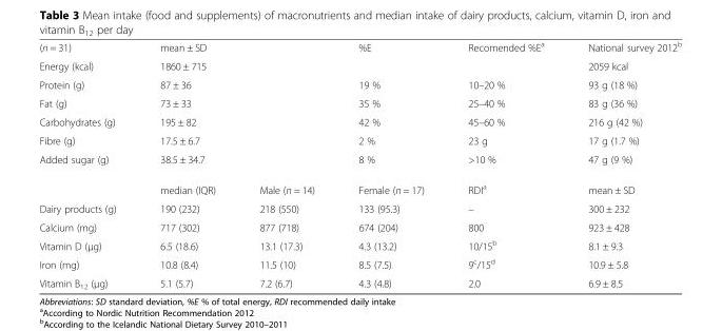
<table><tbody><tr><td>(n = 31)</td><td colspan="2">mean ± SD</td><td>%E</td><td>Recomended %E<sup>a</sup></td><td>National survey 2012<sup>b</sup></td></tr><tr><td>Energy (kcal)</td><td colspan="2">1860 ± 715</td><td></td><td></td><td>2059 kcal</td></tr><tr><td>Protein (g)</td><td colspan="2">87 ± 36</td><td>19 %</td><td>10–20 %</td><td>93 g (18 %)</td></tr><tr><td>Fat (g)</td><td colspan="2">73 ± 33</td><td>35 %</td><td>25–40 %</td><td>83 g (36 %)</td></tr><tr><td>Carbohydrates (g)</td><td colspan="2">195 ± 82</td><td>42 %</td><td>45–60 %</td><td>216 g (42 %)</td></tr><tr><td>Fibre (g)</td><td colspan="2">17.5 ± 6.7</td><td>2 %</td><td>23 g</td><td>17 g (1.7 %)</td></tr><tr><td rowspan="2">Added sugar (g)</td><td colspan="2">38.5 ± 34.7</td><td>8 %</td><td>&gt;10 %</td><td>47 g (9 %)</td></tr><tr><td>median (IQR)</td><td>Male (n = 14)</td><td>Female (n = 17)</td><td>RDI<sup>a</sup></td><td>mean ± SD</td></tr><tr><td>Dairy products (g)</td><td>190 (232)</td><td>218 (550)</td><td>133 (95.3)</td><td>–</td><td>300 ± 232</td></tr><tr><td>Calcium (mg)</td><td>717 (302)</td><td>877 (718)</td><td>674 (204)</td><td>800</td><td>923 ± 428</td></tr><tr><td>Vitamin D (μg)</td><td>6.5 (18.6)</td><td>13.1 (17.3)</td><td>4.3 (13.2)</td><td>10/15<sup>b</sup></td><td>8.1 ± 9.3</td></tr><tr><td>Iron (mg)</td><td>10.8 (8.4)</td><td>11.5 (10)</td><td>8.5 (7.5)</td><td>9<sup>c</sup>/15<sup>d</sup></td><td>10.9 ± 5.8</td></tr><tr><td>Vitamin B<sub>12</sub> (μg)</td><td>5.1 (5.7)</td><td>7.2 (6.7)</td><td>4.3 (4.8)</td><td>2.0</td><td>6.9 ± 8.5</td></tr></tbody></table>